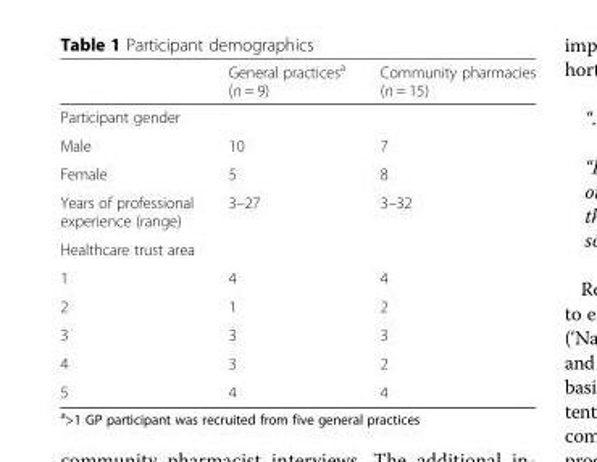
<table><thead><tr><td></td><td>General practices<sup>a</sup> (n = 9)</td><td>Community pharmacies (n = 15)</td></tr></thead><tbody><tr><td colspan="3">Participant gender</td></tr><tr><td>Male</td><td>10</td><td>7</td></tr><tr><td>Female</td><td>5</td><td>8</td></tr><tr><td>Years of professional experience (range)</td><td>3–27</td><td>3–32</td></tr><tr><td colspan="3">Healthcare trust area</td></tr><tr><td>1</td><td>4</td><td>4</td></tr><tr><td>2</td><td>1</td><td>2</td></tr><tr><td>3</td><td>3</td><td>3</td></tr><tr><td>4</td><td>3</td><td>2</td></tr><tr><td>5</td><td>4</td><td>4</td></tr></tbody></table>